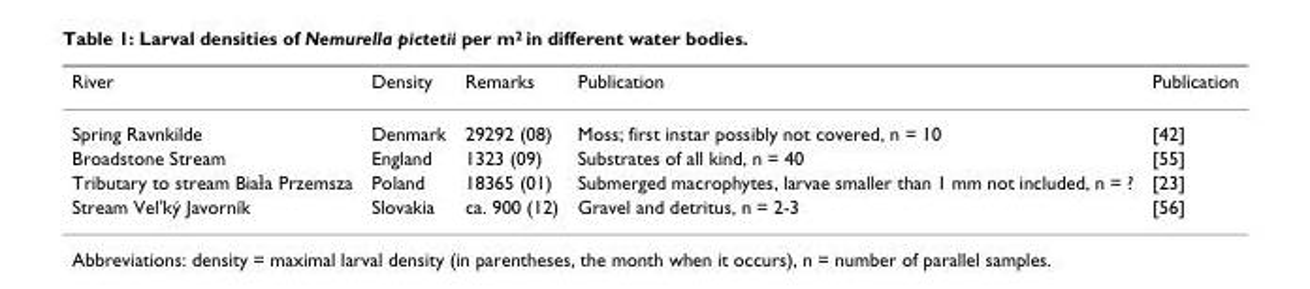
<table><thead><tr><td>River</td><td>Density</td><td>Remarks</td><td>Publication</td><td>Publication</td></tr></thead><tbody><tr><td>Spring Ravnkilde</td><td>Denmark</td><td>29292 (08)</td><td>Moss; first instar possibly not covered, n = 10</td><td>[42]</td></tr><tr><td>Broadstone Stream</td><td>England</td><td>1323 (09)</td><td>Substrates of all kind, n = 40</td><td>[55]</td></tr><tr><td>Tributary to stream Biała Przemsza</td><td>Poland</td><td>18365 (01)</td><td>Submerged macrophytes, larvae smaller than 1 mm not included, n = ?</td><td>[23]</td></tr><tr><td>Stream Vel&#x27;ký Javorník</td><td>Slovakia</td><td>ca. 900 (12)</td><td>Gravel and detritus, n = 2-3</td><td>[56]</td></tr></tbody></table>